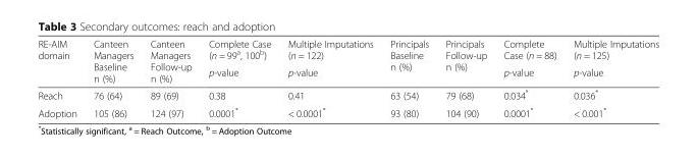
<table><thead><tr><td rowspan="2">RE-AIM domain</td><td rowspan="2">Canteen Managers Baseline n (%)</td><td rowspan="2">Canteen Managers Follow-up n (%)</td><td rowspan="2">Complete Case (n = 99<sup>a</sup>, 100<sup>b</sup>) p-value</td><td rowspan="2">Multiple Imputations (n = 122) p-value</td><td rowspan="2">Principals Baseline n (%)</td><td rowspan="2">Principals Follow-up n (%)</td><td rowspan="2">Complete Case (n = 88) p-value</td><td rowspan="2">Multiple Imputations (n = 125) p-value</td></tr><tr></tr></thead><tbody><tr><td>Reach</td><td>76 (64)</td><td>89 (69)</td><td>0.38</td><td>0.41</td><td>63 (54)</td><td>79 (68)</td><td>0.034*</td><td>0.036*</td></tr><tr><td>Adoption</td><td>105 (86)</td><td>124 (97)</td><td>0.0001*</td><td>&lt; 0.0001*</td><td>93 (80)</td><td>104 (90)</td><td>0.0001*</td><td>&lt; 0.001*</td></tr></tbody></table>